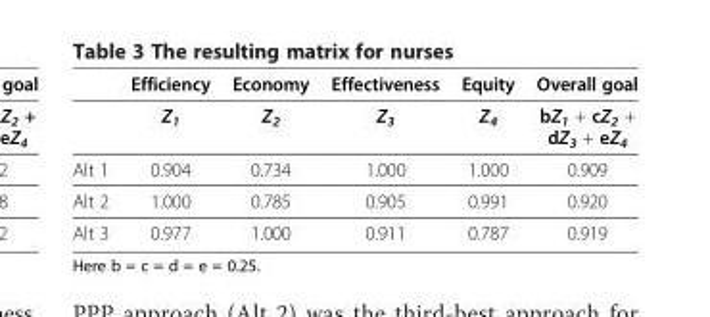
<table><thead><tr><td></td><td>Efficiency</td><td>Economy</td><td>Effectiveness</td><td>Equity</td><td>Overall goal</td></tr></thead><tbody><tr><td></td><td>Z<sub>1</sub></td><td>Z<sub>2</sub></td><td>Z<sub>3</sub></td><td>Z<sub>4</sub></td><td>bZ1 + cZ2 + dZ3 + eZ4</td></tr><tr><td>Alt 1</td><td>0.904</td><td>0.734</td><td>1.000</td><td>1.000</td><td>0.909</td></tr><tr><td>Alt 2</td><td>1.000</td><td>0.785</td><td>0.905</td><td>0.991</td><td>0.920</td></tr><tr><td>Alt 3</td><td>0.977</td><td>1.000</td><td>0.911</td><td>0.787</td><td>0.919</td></tr></tbody></table>